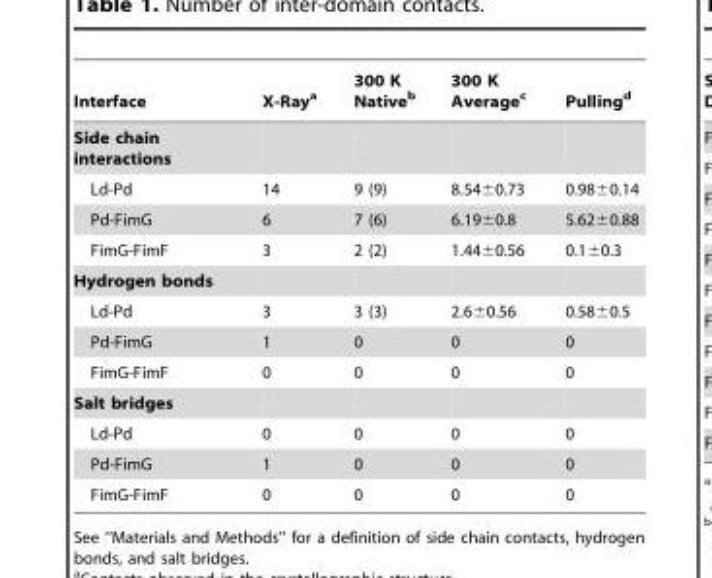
<table><thead><tr><td>Interface</td><td>X-Ray<sup>a</sup></td><td>300 K Native<sup>b</sup></td><td>300 K Average<sup>c</sup></td><td>Pulling<sup>d</sup></td></tr></thead><tbody><tr><td colspan="5">Side chain interactions</td></tr><tr><td>Ld-Pd</td><td>14</td><td>9 (9)</td><td>8.54±0.73</td><td>0.98±0.14</td></tr><tr><td>Pd-FimG</td><td>6</td><td>7 (6)</td><td>6.19±0.8</td><td>5.62±0.88</td></tr><tr><td>FimG-FimF</td><td>3</td><td>2 (2)</td><td>1.44±0.56</td><td>0.1±0.3</td></tr><tr><td colspan="5">Hydrogen bonds</td></tr><tr><td>Ld-Pd</td><td>3</td><td>3 (3)</td><td>2.6±0.56</td><td>0.58±0.5</td></tr><tr><td>Pd-FimG</td><td>1</td><td>0</td><td>0</td><td>0</td></tr><tr><td>FimG-FimF</td><td>0</td><td>0</td><td>0</td><td>0</td></tr><tr><td colspan="5">Salt bridges</td></tr><tr><td>Ld-Pd</td><td>0</td><td>0</td><td>0</td><td>0</td></tr><tr><td>Pd-FimG</td><td>1</td><td>0</td><td>0</td><td>0</td></tr><tr><td>FimG-FimF</td><td>0</td><td>0</td><td>0</td><td>0</td></tr></tbody></table>